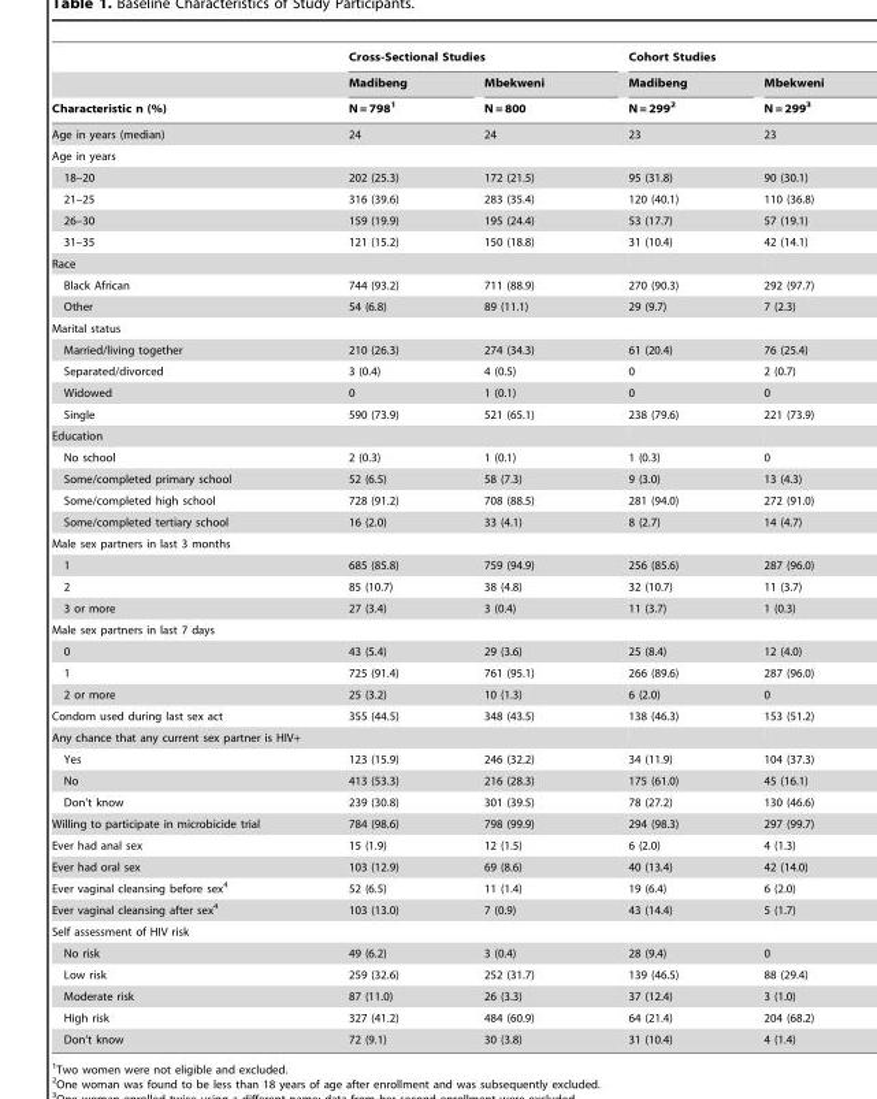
<table><thead><tr><td rowspan="3">Characteristic n (%)</td><td colspan="2">Cross-Sectional Studies</td><td colspan="2">Cohort Studies</td></tr><tr><td rowspan="2">Madibeng N = 798<sup>1</sup></td><td rowspan="2">Mbekweni N = 800</td><td rowspan="2">Madibeng N = 299<sup>2</sup></td><td rowspan="2">Mbekweni N = 299<sup>3</sup></td></tr><tr></tr></thead><tbody><tr><td>Age in years (median)</td><td>24</td><td>24</td><td>23</td><td>23</td></tr><tr><td colspan="5">Age in years</td></tr><tr><td>18–20</td><td>202 (25.3)</td><td>172 (21.5)</td><td>95 (31.8)</td><td>90 (30.1)</td></tr><tr><td>21–25</td><td>316 (39.6)</td><td>283 (35.4)</td><td>120 (40.1)</td><td>110 (36.8)</td></tr><tr><td>26–30</td><td>159 (19.9)</td><td>195 (24.4)</td><td>53 (17.7)</td><td>57 (19.1)</td></tr><tr><td>31–35</td><td>121 (15.2)</td><td>150 (18.8)</td><td>31 (10.4)</td><td>42 (14.1)</td></tr><tr><td colspan="5">Race</td></tr><tr><td>Black African</td><td>744 (93.2)</td><td>711 (88.9)</td><td>270 (90.3)</td><td>292 (97.7)</td></tr><tr><td>Other</td><td>54 (6.8)</td><td>89 (11.1)</td><td>29 (9.7)</td><td>7 (2.3)</td></tr><tr><td colspan="5">Marital status</td></tr><tr><td>Married/living together</td><td>210 (26.3)</td><td>274 (34.3)</td><td>61 (20.4)</td><td>76 (25.4)</td></tr><tr><td>Separated/divorced</td><td>3 (0.4)</td><td>4 (0.5)</td><td>0</td><td>2 (0.7)</td></tr><tr><td>Widowed</td><td>0</td><td>1 (0.1)</td><td>0</td><td>0</td></tr><tr><td>Single</td><td>590 (73.9)</td><td>521 (65.1)</td><td>238 (79.6)</td><td>221 (73.9)</td></tr><tr><td colspan="5">Education</td></tr><tr><td>No school</td><td>2 (0.3)</td><td>1 (0.1)</td><td>1 (0.3)</td><td>0</td></tr><tr><td>Some/completed primary school</td><td>52 (6.5)</td><td>58 (7.3)</td><td>9 (3.0)</td><td>13 (4.3)</td></tr><tr><td>Some/completed high school</td><td>728 (91.2)</td><td>708 (88.5)</td><td>281 (94.0)</td><td>272 (91.0)</td></tr><tr><td>Some/completed tertiary school</td><td>16 (2.0)</td><td>33 (4.1)</td><td>8 (2.7)</td><td>14 (4.7)</td></tr><tr><td colspan="5">Male sex partners in last 3 months</td></tr><tr><td>1</td><td>685 (85.8)</td><td>759 (94.9)</td><td>256 (85.6)</td><td>287 (96.0)</td></tr><tr><td>2</td><td>85 (10.7)</td><td>38 (4.8)</td><td>32 (10.7)</td><td>11 (3.7)</td></tr><tr><td>3 or more</td><td>27 (3.4)</td><td>3 (0.4)</td><td>11 (3.7)</td><td>1 (0.3)</td></tr><tr><td colspan="5">Male sex partners in last 7 days</td></tr><tr><td>0</td><td>43 (5.4)</td><td>29 (3.6)</td><td>25 (8.4)</td><td>12 (4.0)</td></tr><tr><td>1</td><td>725 (91.4)</td><td>761 (95.1)</td><td>266 (89.6)</td><td>287 (96.0)</td></tr><tr><td>2 or more</td><td>25 (3.2)</td><td>10 (1.3)</td><td>6 (2.0)</td><td>0</td></tr><tr><td>Condom used during last sex act</td><td>355 (44.5)</td><td>348 (43.5)</td><td>138 (46.3)</td><td>153 (51.2)</td></tr><tr><td colspan="5">Any chance that any current sex partner is HIV+</td></tr><tr><td>Yes</td><td>123 (15.9)</td><td>246 (32.2)</td><td>34 (11.9)</td><td>104 (37.3)</td></tr><tr><td>No</td><td>413 (53.3)</td><td>216 (28.3)</td><td>175 (61.0)</td><td>45 (16.1)</td></tr><tr><td>Don’t know</td><td>239 (30.8)</td><td>301 (39.5)</td><td>78 (27.2)</td><td>130 (46.6)</td></tr><tr><td>Willing to participate in microbicide trial</td><td>784 (98.6)</td><td>798 (99.9)</td><td>294 (98.3)</td><td>297 (99.7)</td></tr><tr><td>Ever had anal sex</td><td>15 (1.9)</td><td>12 (1.5)</td><td>6 (2.0)</td><td>4 (1.3)</td></tr><tr><td>Ever had oral sex</td><td>103 (12.9)</td><td>69 (8.6)</td><td>40 (13.4)</td><td>42 (14.0)</td></tr><tr><td>Ever vaginal cleansing before sex<sup>4</sup></td><td>52 (6.5)</td><td>11 (1.4)</td><td>19 (6.4)</td><td>6 (2.0)</td></tr><tr><td>Ever vaginal cleansing after sex<sup>4</sup></td><td>103 (13.0)</td><td>7 (0.9)</td><td>43 (14.4)</td><td>5 (1.7)</td></tr><tr><td colspan="5">Self assessment of HIV risk</td></tr><tr><td>No risk</td><td>49 (6.2)</td><td>3 (0.4)</td><td>28 (9.4)</td><td>0</td></tr><tr><td>Low risk</td><td>259 (32.6)</td><td>252 (31.7)</td><td>139 (46.5)</td><td>88 (29.4)</td></tr><tr><td>Moderate risk</td><td>87 (11.0)</td><td>26 (3.3)</td><td>37 (12.4)</td><td>3 (1.0)</td></tr><tr><td>High risk</td><td>327 (41.2)</td><td>484 (60.9)</td><td>64 (21.4)</td><td>204 (68.2)</td></tr><tr><td>Don’t know</td><td>72 (9.1)</td><td>30 (3.8)</td><td>31 (10.4)</td><td>4 (1.4)</td></tr></tbody></table>